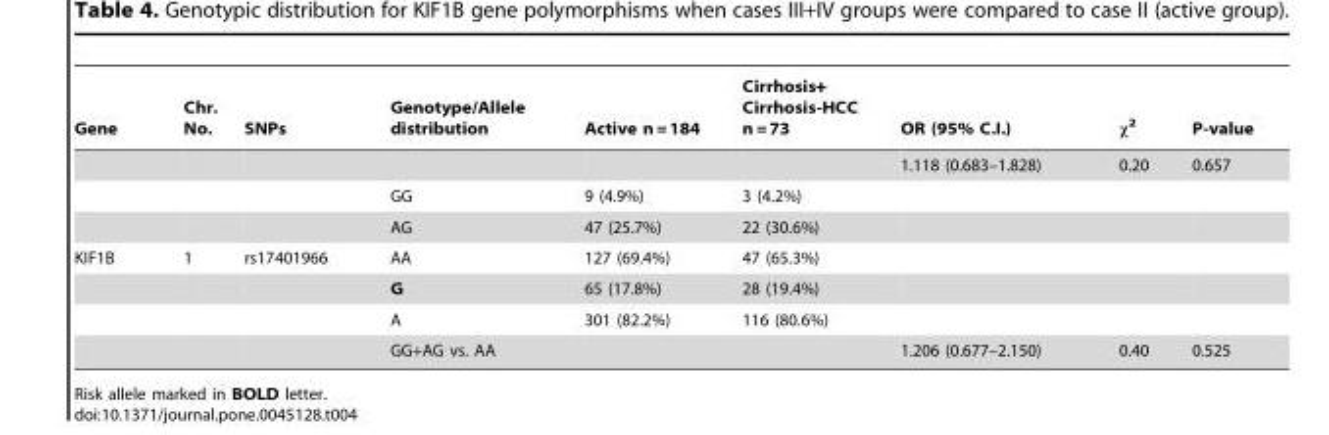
<table><thead><tr><td>Gene</td><td>Chr. No.</td><td>SNPs</td><td>Genotype/Allele distribution</td><td>Active n = 184</td><td>Cirrhosis+ Cirrhosis-HCC n = 73</td><td>OR (95% C.I.)</td><td>x2</td><td>P-value</td></tr></thead><tbody><tr><td></td><td></td><td></td><td></td><td></td><td></td><td>1.118 (0.683–1.828)</td><td>0.20</td><td>0.657</td></tr><tr><td></td><td></td><td></td><td>GG</td><td>9 (4.9%)</td><td>3 (4.2%)</td><td></td><td></td><td></td></tr><tr><td></td><td></td><td></td><td>AG</td><td>47 (25.7%)</td><td>22 (30.6%)</td><td></td><td></td><td></td></tr><tr><td rowspan="4">KIF1B</td><td>1</td><td>rs17401966</td><td>AA</td><td>127 (69.4%)</td><td>47 (65.3%)</td><td></td><td></td><td></td></tr><tr><td></td><td></td><td>G</td><td>65 (17.8%)</td><td>28 (19.4%)</td><td></td><td></td><td></td></tr><tr><td></td><td></td><td>A</td><td>301 (82.2%)</td><td>116 (80.6%)</td><td></td><td></td><td></td></tr><tr><td></td><td></td><td>GG+AG vs. AA</td><td></td><td></td><td>1.206 (0.677–2.150)</td><td>0.40</td><td>0.525</td></tr></tbody></table>